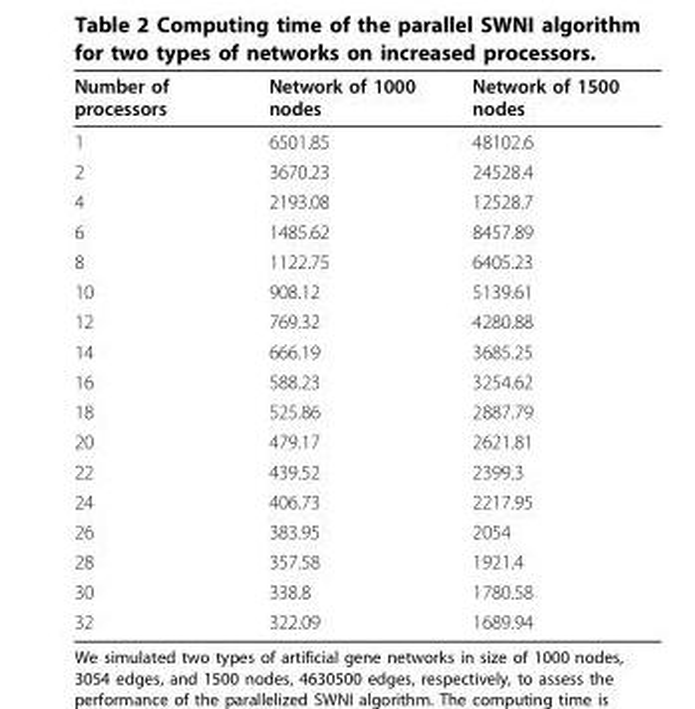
<table><thead><tr><td>Number of processors</td><td>Network of 1000 nodes</td><td>Network of 1500 nodes</td></tr></thead><tbody><tr><td>1</td><td>6501.85</td><td>48102.6</td></tr><tr><td>2</td><td>3670.23</td><td>24528.4</td></tr><tr><td>4</td><td>2193.08</td><td>12528.7</td></tr><tr><td>6</td><td>1485.62</td><td>8457.89</td></tr><tr><td>8</td><td>1122.75</td><td>6405.23</td></tr><tr><td>10</td><td>908.12</td><td>5139.61</td></tr><tr><td>12</td><td>769.32</td><td>4280.88</td></tr><tr><td>14</td><td>666.19</td><td>3685.25</td></tr><tr><td>16</td><td>588.23</td><td>3254.62</td></tr><tr><td>18</td><td>525.86</td><td>2887.79</td></tr><tr><td>20</td><td>479.17</td><td>2621.81</td></tr><tr><td>22</td><td>439.52</td><td>2399.3</td></tr><tr><td>24</td><td>406.73</td><td>2217.95</td></tr><tr><td>26</td><td>383.95</td><td>2054</td></tr><tr><td>28</td><td>357.58</td><td>1921.4</td></tr><tr><td>30</td><td>338.8</td><td>1780.58</td></tr><tr><td>32</td><td>322.09</td><td>1689.94</td></tr></tbody></table>